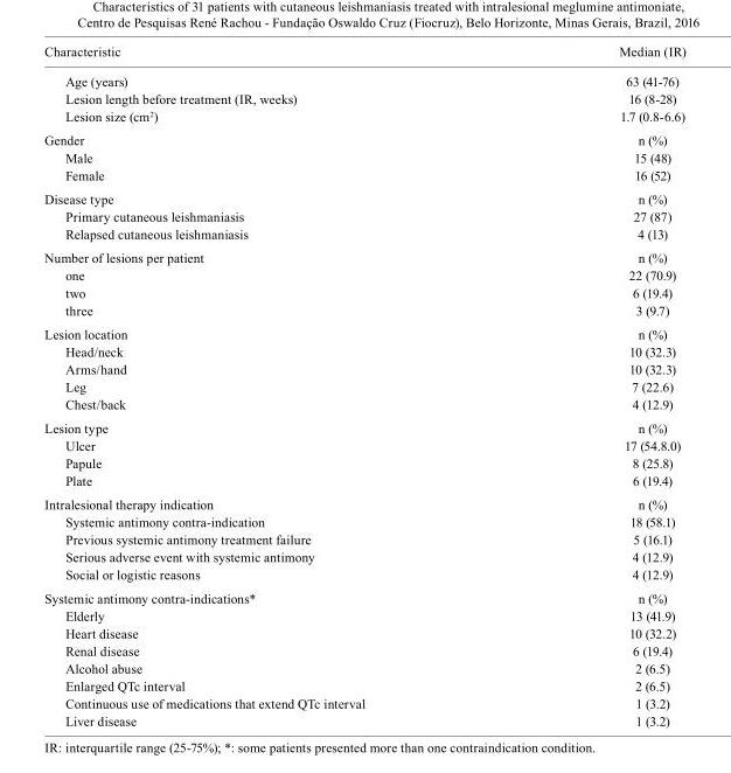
<table><thead><tr><td>Characteristic</td><td>Median (IR)</td></tr></thead><tbody><tr><td>Age (years)</td><td>63 (41-76)</td></tr><tr><td>Lesion length before treatment (IR, weeks)</td><td>16 (8-28)</td></tr><tr><td>Lesion size (cm<sup>2</sup>)</td><td>1.7 (0.8-6.6)</td></tr><tr><td>Gender</td><td>n (%)</td></tr><tr><td>Male</td><td>15 (48)</td></tr><tr><td>Female</td><td>16 (52)</td></tr><tr><td>Disease type</td><td>n (%)</td></tr><tr><td>Primary cutaneous leishmaniasis</td><td>27 (87)</td></tr><tr><td>Relapsed cutaneous leishmaniasis</td><td>4 (13)</td></tr><tr><td>Number of lesions per patient</td><td>n (%)</td></tr><tr><td>one</td><td>22 (70.9)</td></tr><tr><td>two</td><td>6 (19.4)</td></tr><tr><td>three</td><td>3 (9.7)</td></tr><tr><td>Lesion location</td><td>n (%)</td></tr><tr><td>Head/neck</td><td>10 (32.3)</td></tr><tr><td>Arms/hand</td><td>10 (32.3)</td></tr><tr><td>Leg</td><td>7 (22.6)</td></tr><tr><td>Chest/back</td><td>4 (12.9)</td></tr><tr><td>Lesion type</td><td>n (%)</td></tr><tr><td>Ulcer</td><td>17 (54.8.0)</td></tr><tr><td>Papule</td><td>8 (25.8)</td></tr><tr><td>Plate</td><td>6 (19.4)</td></tr><tr><td>Intralesional therapy indication</td><td>n (%)</td></tr><tr><td>Systemic antimony contra-indication</td><td>18 (58.1)</td></tr><tr><td>Previous systemic antimony treatment failure</td><td>5 (16.1)</td></tr><tr><td>Serious adverse event with systemic antimony</td><td>4 (12.9)</td></tr><tr><td>Social or logistic reasons</td><td>4 (12.9)</td></tr><tr><td>Systemic antimony contra-indications*</td><td>n (%)</td></tr><tr><td>Elderly</td><td>13 (41.9)</td></tr><tr><td>Heart disease</td><td>10 (32.2)</td></tr><tr><td>Renal disease</td><td>6 (19.4)</td></tr><tr><td>Alcohol abuse</td><td>2 (6.5)</td></tr><tr><td>Enlarged QTc interval</td><td>2 (6.5)</td></tr><tr><td>Continuous use of medications that extend QTc interval</td><td>1 (3.2)</td></tr><tr><td>Liver disease</td><td>1 (3.2)</td></tr></tbody></table>